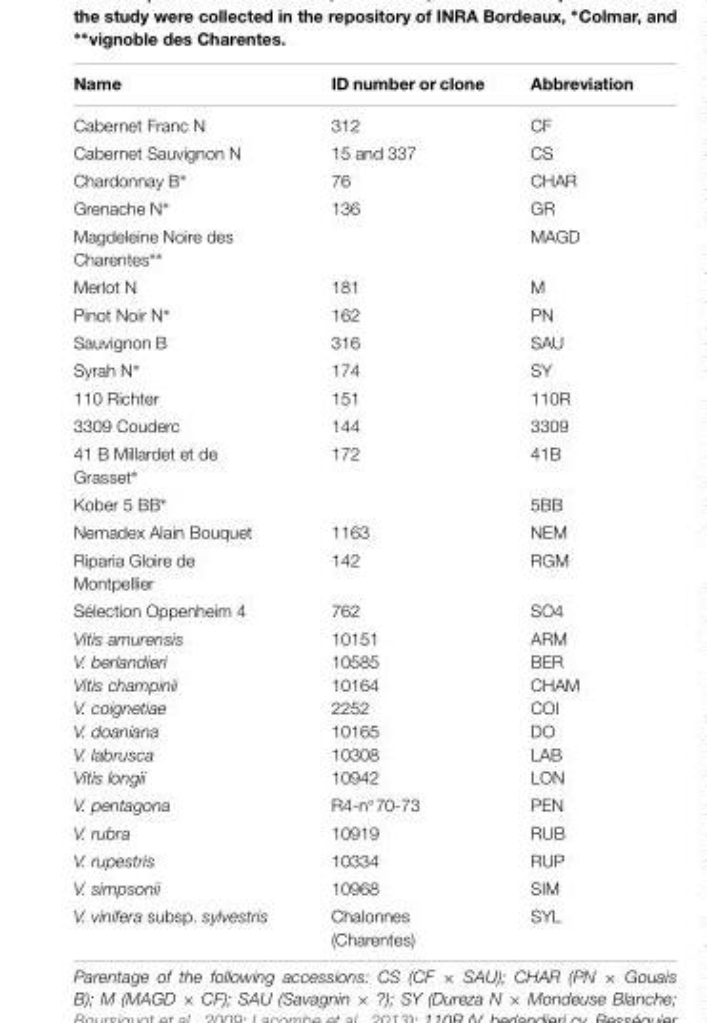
<table><thead><tr><td>Name</td><td>ID number or clone</td><td>Abbreviation</td></tr></thead><tbody><tr><td>Cabernet Franc N</td><td>312</td><td>CF</td></tr><tr><td>Cabernet Sauvignon N</td><td>15 and 337</td><td>CS</td></tr><tr><td>Chardonnay B∗</td><td>76</td><td>CHAR</td></tr><tr><td>Grenache N∗</td><td>136</td><td>GR</td></tr><tr><td>Magdeleine Noire des Charentes∗∗</td><td></td><td>MAGD</td></tr><tr><td>Merlot N</td><td>181</td><td>M</td></tr><tr><td>Pinot Noir N∗</td><td>162</td><td>PN</td></tr><tr><td>Sauvignon B</td><td>316</td><td>SAU</td></tr><tr><td>Syrah N∗</td><td>174</td><td>SY</td></tr><tr><td>110 Richter</td><td>151</td><td>110R</td></tr><tr><td>3309 Couderc</td><td>144</td><td>3309</td></tr><tr><td>41 B Millardet et de Grasset∗</td><td>172</td><td>41B</td></tr><tr><td>Kober 5 BB∗</td><td></td><td>5BB</td></tr><tr><td>Nemadex Alain Bouquet</td><td>1163</td><td>NEM</td></tr><tr><td>Riparia Gloire de Montpellier</td><td>142</td><td>RGM</td></tr><tr><td>Sélection Oppenheim 4</td><td>762</td><td>SO4</td></tr><tr><td>Vitis amurensis V. berlandieri Vitis champinii V. coignetiae V. doaniana V. labrusca Vitis longii</td><td>10151 10585 10164 2252 10165 10308 10942</td><td>ARM BER CHAM COI DO LAB LON</td></tr><tr><td>V. pentagona</td><td>R4-n◦70-73</td><td>PEN</td></tr><tr><td>V. rubra</td><td>10919</td><td>RUB</td></tr><tr><td>V. rupestris</td><td>10334</td><td>RUP</td></tr><tr><td>V. simpsonii</td><td>10968</td><td>SIM</td></tr><tr><td>V. vinifera subsp. sylvestris</td><td>Chalonnes (Charentes)</td><td>SYL</td></tr></tbody></table>